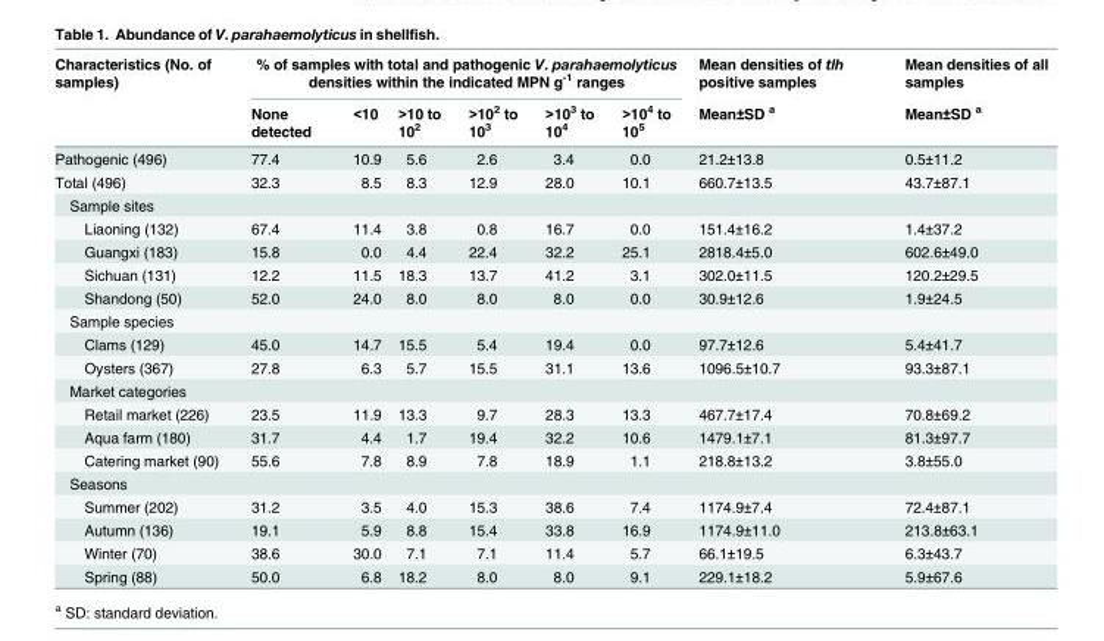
<table><thead><tr><td rowspan="2">Characteristics (No. of samples)</td><td colspan="6">% of samples with total and pathogenic V. parahaemolyticus densities within the indicated MPN g<sup>-1</sup> ranges</td><td rowspan="2">Mean densities of tlh positive samples Mean±SD <sup>a</sup></td><td rowspan="2">Mean densities of all samples Mean±SD <sup>a</sup></td></tr><tr><td>None detected</td><td>&lt;10</td><td>&gt;10 to 10<sup>2</sup></td><td>&gt;10<sup>2</sup> to 10<sup>3</sup></td><td>&gt;10<sup>3</sup> to 10<sup>4</sup></td><td>&gt;10<sup>4</sup> to 10<sup>5</sup></td></tr></thead><tbody><tr><td>Pathogenic (496)</td><td>77.4</td><td>10.9</td><td>5.6</td><td>2.6</td><td>3.4</td><td>0.0</td><td>21.2±13.8</td><td>0.5±11.2</td></tr><tr><td>Total (496)</td><td>32.3</td><td>8.5</td><td>8.3</td><td>12.9</td><td>28.0</td><td>10.1</td><td>660.7±13.5</td><td>43.7±87.1</td></tr><tr><td colspan="9">Sample sites</td></tr><tr><td>Liaoning (132)</td><td>67.4</td><td>11.4</td><td>3.8</td><td>0.8</td><td>16.7</td><td>0.0</td><td>151.4±16.2</td><td>1.4±37.2</td></tr><tr><td>Guangxi (183)</td><td>15.8</td><td>0.0</td><td>4.4</td><td>22.4</td><td>32.2</td><td>25.1</td><td>2818.4±5.0</td><td>602.6±49.0</td></tr><tr><td>Sichuan (131)</td><td>12.2</td><td>11.5</td><td>18.3</td><td>13.7</td><td>41.2</td><td>3.1</td><td>302.0±11.5</td><td>120.2±29.5</td></tr><tr><td>Shandong (50)</td><td>52.0</td><td>24.0</td><td>8.0</td><td>8.0</td><td>8.0</td><td>0.0</td><td>30.9±12.6</td><td>1.9±24.5</td></tr><tr><td colspan="9">Sample species</td></tr><tr><td>Clams (129)</td><td>45.0</td><td>14.7</td><td>15.5</td><td>5.4</td><td>19.4</td><td>0.0</td><td>97.7±12.6</td><td>5.4±41.7</td></tr><tr><td>Oysters (367)</td><td>27.8</td><td>6.3</td><td>5.7</td><td>15.5</td><td>31.1</td><td>13.6</td><td>1096.5±10.7</td><td>93.3±87.1</td></tr><tr><td colspan="9">Market categories</td></tr><tr><td>Retail market (226)</td><td>23.5</td><td>11.9</td><td>13.3</td><td>9.7</td><td>28.3</td><td>13.3</td><td>467.7±17.4</td><td>70.8±69.2</td></tr><tr><td>Aqua farm (180)</td><td>31.7</td><td>4.4</td><td>1.7</td><td>19.4</td><td>32.2</td><td>10.6</td><td>1479.1±7.1</td><td>81.3±97.7</td></tr><tr><td>Catering market (90)</td><td>55.6</td><td>7.8</td><td>8.9</td><td>7.8</td><td>18.9</td><td>1.1</td><td>218.8±13.2</td><td>3.8±55.0</td></tr><tr><td colspan="9">Seasons</td></tr><tr><td>Summer (202)</td><td>31.2</td><td>3.5</td><td>4.0</td><td>15.3</td><td>38.6</td><td>7.4</td><td>1174.9±7.4</td><td>72.4±87.1</td></tr><tr><td>Autumn (136)</td><td>19.1</td><td>5.9</td><td>8.8</td><td>15.4</td><td>33.8</td><td>16.9</td><td>1174.9±11.0</td><td>213.8±63.1</td></tr><tr><td>Winter (70)</td><td>38.6</td><td>30.0</td><td>7.1</td><td>7.1</td><td>11.4</td><td>5.7</td><td>66.1±19.5</td><td>6.3±43.7</td></tr><tr><td>Spring (88)</td><td>50.0</td><td>6.8</td><td>18.2</td><td>8.0</td><td>8.0</td><td>9.1</td><td>229.1±18.2</td><td>5.9±67.6</td></tr></tbody></table>